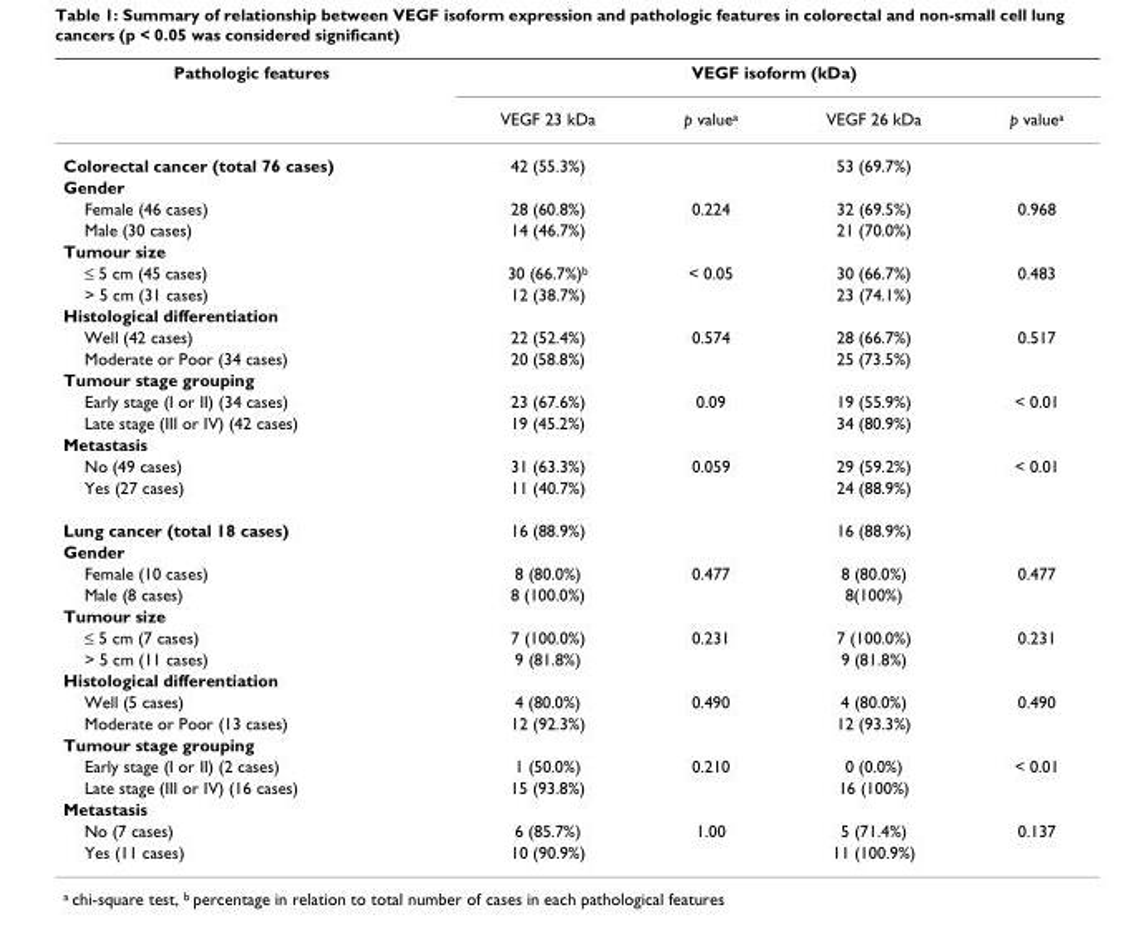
<table><thead><tr><td rowspan="2">Pathologic features</td><td colspan="4">VEGF isoform (kDa)</td></tr><tr><td>VEGF 23 kDa</td><td>p value<sup>a</sup></td><td>VEGF 26 kDa</td><td>p value<sup>a</sup></td></tr></thead><tbody><tr><td>Colorectal cancer (total 76 cases)</td><td>42 (55.3%)</td><td></td><td>53 (69.7%)</td><td></td></tr><tr><td colspan="5">Gender</td></tr><tr><td>Female (46 cases)</td><td>28 (60.8%)</td><td>0.224</td><td>32 (69.5%)</td><td>0.968</td></tr><tr><td>Male (30 cases)</td><td>14 (46.7%)</td><td></td><td>21 (70.0%)</td><td></td></tr><tr><td colspan="5">Tumour size</td></tr><tr><td>≤ 5 cm (45 cases)</td><td>30 (66.7%)<sup>b</sup></td><td>&lt; 0.05</td><td>30 (66.7%)</td><td>0.483</td></tr><tr><td>&gt; 5 cm (31 cases)</td><td>12 (38.7%)</td><td></td><td>23 (74.1%)</td><td></td></tr><tr><td colspan="5">Histological differentiation</td></tr><tr><td>Well (42 cases)</td><td>22 (52.4%)</td><td>0.574</td><td>28 (66.7%)</td><td>0.517</td></tr><tr><td>Moderate or Poor (34 cases)</td><td>20 (58.8%)</td><td></td><td>25 (73.5%)</td><td></td></tr><tr><td colspan="5">Tumour stage grouping</td></tr><tr><td>Early stage (I or II) (34 cases)</td><td>23 (67.6%)</td><td>0.09</td><td>19 (55.9%)</td><td>&lt; 0.01</td></tr><tr><td>Late stage (III or IV) (42 cases)</td><td>19 (45.2%)</td><td></td><td>34 (80.9%)</td><td></td></tr><tr><td colspan="5">Metastasis</td></tr><tr><td>No (49 cases)</td><td>31 (63.3%)</td><td>0.059</td><td>29 (59.2%)</td><td>&lt; 0.01</td></tr><tr><td>Yes (27 cases)</td><td>11 (40.7%)</td><td></td><td>24 (88.9%)</td><td></td></tr><tr><td>Lung cancer (total 18 cases)</td><td>16 (88.9%)</td><td></td><td>16 (88.9%)</td><td></td></tr><tr><td colspan="5">Gender</td></tr><tr><td>Female (10 cases)</td><td>8 (80.0%)</td><td>0.477</td><td>8 (80.0%)</td><td>0.477</td></tr><tr><td>Male (8 cases)</td><td>8 (100.0%)</td><td></td><td>8(100%)</td><td></td></tr><tr><td colspan="5">Tumour size</td></tr><tr><td>≤ 5 cm (7 cases)</td><td>7 (100.0%)</td><td>0.231</td><td>7 (100.0%)</td><td>0.231</td></tr><tr><td>&gt; 5 cm (11 cases)</td><td>9 (81.8%)</td><td></td><td>9 (81.8%)</td><td></td></tr><tr><td colspan="5">Histological differentiation</td></tr><tr><td>Well (5 cases)</td><td>4 (80.0%)</td><td>0.490</td><td>4 (80.0%)</td><td>0.490</td></tr><tr><td>Moderate or Poor (13 cases)</td><td>12 (92.3%)</td><td></td><td>12 (93.3%)</td><td></td></tr><tr><td colspan="5">Tumour stage grouping</td></tr><tr><td>Early stage (I or II) (2 cases)</td><td>1 (50.0%)</td><td>0.210</td><td>0 (0.0%)</td><td>&lt; 0.01</td></tr><tr><td>Late stage (III or IV) (16 cases)</td><td>15 (93.8%)</td><td></td><td>16 (100%)</td><td></td></tr><tr><td colspan="5">Metastasis</td></tr><tr><td>No (7 cases)</td><td>6 (85.7%)</td><td>1.00</td><td>5 (71.4%)</td><td>0.137</td></tr><tr><td>Yes (11 cases)</td><td>10 (90.9%)</td><td></td><td>11 (100.9%)</td><td></td></tr></tbody></table>